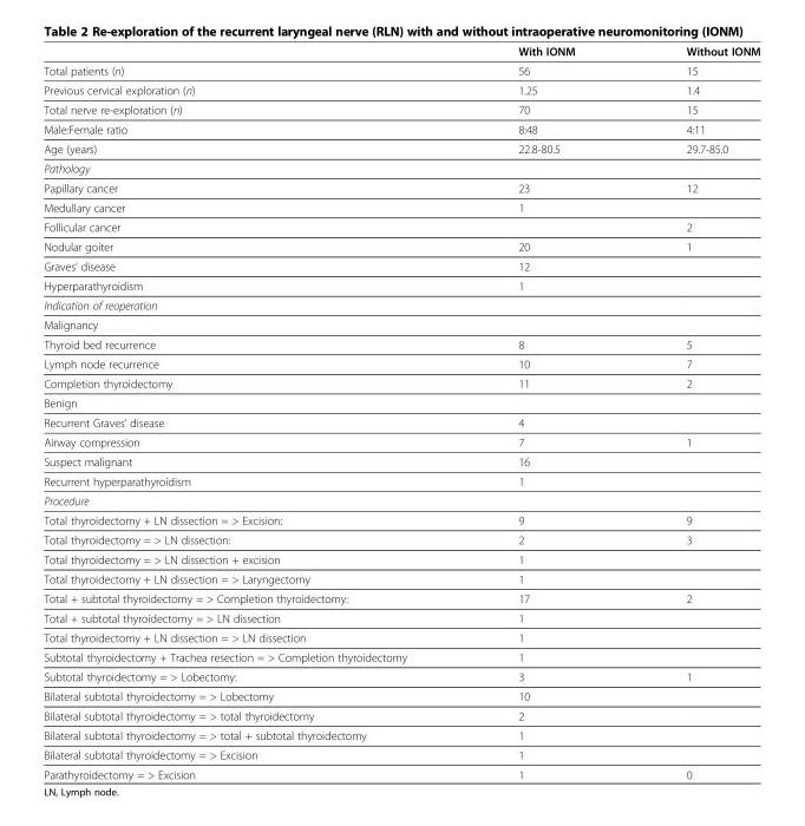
<table><thead><tr><td></td><td>With IONM</td><td>Without IONM</td></tr></thead><tbody><tr><td>Total patients (n)</td><td>56</td><td>15</td></tr><tr><td>Previous cervical exploration (n)</td><td>1.25</td><td>1.4</td></tr><tr><td>Total nerve re-exploration (n)</td><td>70</td><td>15</td></tr><tr><td>Male:Female ratio</td><td>8:48</td><td>4:11</td></tr><tr><td>Age (years)</td><td>22.8-80.5</td><td>29.7-85.0</td></tr><tr><td colspan="3">Pathology</td></tr><tr><td>Papillary cancer</td><td>23</td><td>12</td></tr><tr><td>Medullary cancer</td><td>1</td><td></td></tr><tr><td>Follicular cancer</td><td></td><td>2</td></tr><tr><td>Nodular goiter</td><td>20</td><td>1</td></tr><tr><td>Graves’ disease</td><td>12</td><td></td></tr><tr><td>Hyperparathyroidism</td><td>1</td><td></td></tr><tr><td colspan="3">Indication of reoperation</td></tr><tr><td colspan="3">Malignancy</td></tr><tr><td>Thyroid bed recurrence</td><td>8</td><td>5</td></tr><tr><td>Lymph node recurrence</td><td>10</td><td>7</td></tr><tr><td>Completion thyroidectomy</td><td>11</td><td>2</td></tr><tr><td colspan="3">Benign</td></tr><tr><td>Recurrent Graves’ disease</td><td>4</td><td></td></tr><tr><td>Airway compression</td><td>7</td><td>1</td></tr><tr><td>Suspect malignant</td><td>16</td><td></td></tr><tr><td>Recurrent hyperparathyroidism</td><td>1</td><td></td></tr><tr><td colspan="3">Procedure</td></tr><tr><td>Total thyroidectomy + LN dissection = &gt; Excision:</td><td>9</td><td>9</td></tr><tr><td>Total thyroidectomy = &gt; LN dissection:</td><td>2</td><td>3</td></tr><tr><td>Total thyroidectomy = &gt; LN dissection + excision</td><td>1</td><td></td></tr><tr><td>Total thyroidectomy + LN dissection = &gt; Laryngectomy</td><td>1</td><td></td></tr><tr><td>Total + subtotal thyroidectomy = &gt; Completion thyroidectomy:</td><td>17</td><td>2</td></tr><tr><td>Total + subtotal thyroidectomy = &gt; LN dissection</td><td>1</td><td></td></tr><tr><td>Total thyroidectomy + LN dissection = &gt; LN dissection</td><td>1</td><td></td></tr><tr><td>Subtotal thyroidectomy + Trachea resection = &gt; Completion thyroidectomy</td><td>1</td><td></td></tr><tr><td>Subtotal thyroidectomy = &gt; Lobectomy:</td><td>3</td><td>1</td></tr><tr><td>Bilateral subtotal thyroidectomy = &gt; Lobectomy</td><td>10</td><td></td></tr><tr><td>Bilateral subtotal thyroidectomy = &gt; total thyroidectomy</td><td>2</td><td></td></tr><tr><td>Bilateral subtotal thyroidectomy = &gt; total + subtotal thyroidectomy</td><td>1</td><td></td></tr><tr><td>Bilateral subtotal thyroidectomy = &gt; Excision</td><td>1</td><td></td></tr><tr><td>Parathyroidectomy = &gt; Excision</td><td>1</td><td>0</td></tr></tbody></table>